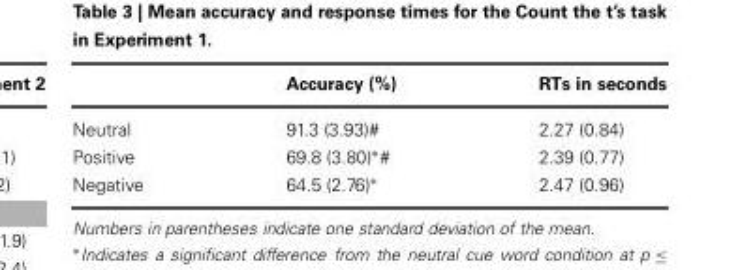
<table><thead><tr><td></td><td>Accuracy (%)</td><td>RTs in seconds</td></tr></thead><tbody><tr><td>Neutral</td><td>91.3 (3.93)#</td><td>2.27 (0.84)</td></tr><tr><td>Positive</td><td>69.8 (3.80)∗#</td><td>2.39 (0.77)</td></tr><tr><td>Negative</td><td>64.5 (2.76)∗</td><td>2.47 (0.96)</td></tr></tbody></table>